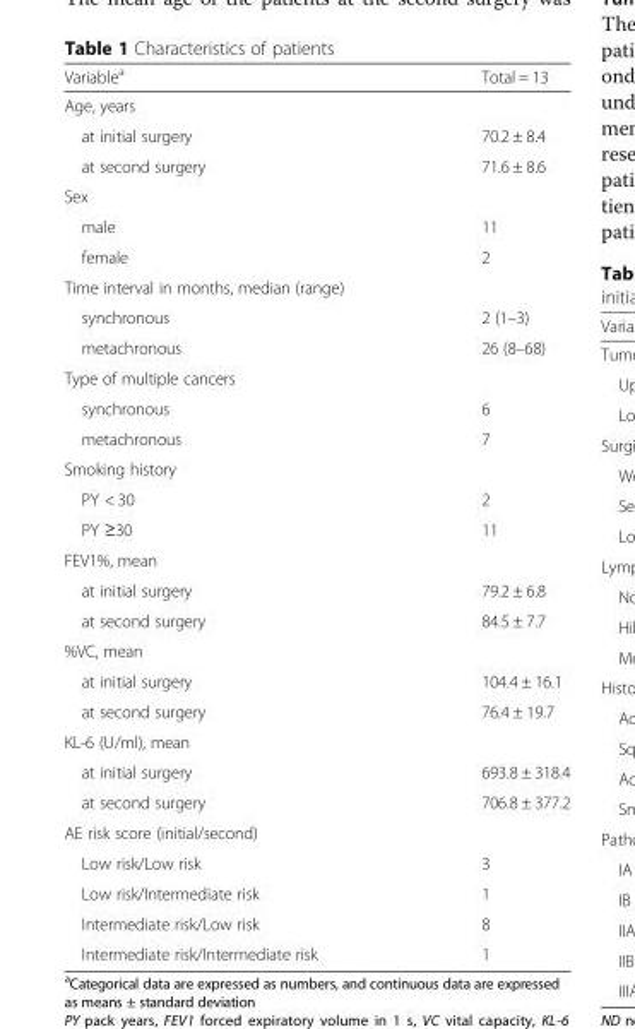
<table><thead><tr><td>Variable<sup>a</sup></td><td>Total = 13</td></tr></thead><tbody><tr><td colspan="2">Age, years</td></tr><tr><td>at initial surgery</td><td>70.2 ± 8.4</td></tr><tr><td>at second surgery</td><td>71.6 ± 8.6</td></tr><tr><td colspan="2">Sex</td></tr><tr><td>male</td><td>11</td></tr><tr><td>female</td><td>2</td></tr><tr><td colspan="2">Time interval in months, median (range)</td></tr><tr><td>synchronous</td><td>2 (1–3)</td></tr><tr><td>metachronous</td><td>26 (8–68)</td></tr><tr><td colspan="2">Type of multiple cancers</td></tr><tr><td>synchronous</td><td>6</td></tr><tr><td>metachronous</td><td>7</td></tr><tr><td colspan="2">Smoking history</td></tr><tr><td>PY &lt; 30</td><td>2</td></tr><tr><td>PY ≥30</td><td>11</td></tr><tr><td colspan="2">FEV1%, mean</td></tr><tr><td>at initial surgery</td><td>79.2 ± 6.8</td></tr><tr><td>at second surgery</td><td>84.5 ± 7.7</td></tr><tr><td colspan="2">%VC, mean</td></tr><tr><td>at initial surgery</td><td>104.4 ± 16.1</td></tr><tr><td>at second surgery</td><td>76.4 ± 19.7</td></tr><tr><td colspan="2">KL-6 (U/ml), mean</td></tr><tr><td>at initial surgery</td><td>693.8 ± 318.4</td></tr><tr><td>at second surgery</td><td>706.8 ± 377.2</td></tr><tr><td colspan="2">AE risk score (initial/second)</td></tr><tr><td>Low risk/Low risk</td><td>3</td></tr><tr><td>Low risk/Intermediate risk</td><td>1</td></tr><tr><td>Intermediate risk/Low risk</td><td>8</td></tr><tr><td>Intermediate risk/Intermediate risk</td><td>1</td></tr></tbody></table>